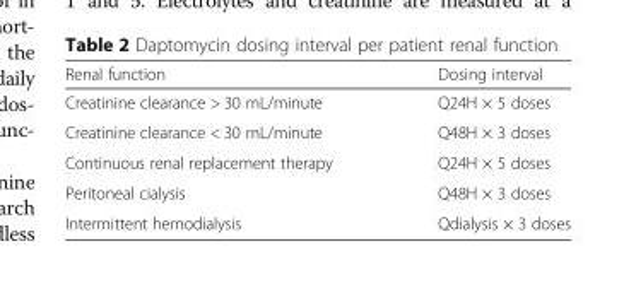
<table><thead><tr><td>Renal function</td><td>Dosing interval</td></tr></thead><tbody><tr><td>Creatinine clearance &gt; 30 mL/minute</td><td>Q24H × 5 doses</td></tr><tr><td>Creatinine clearance &lt; 30 mL/minute</td><td>Q48H × 3 doses</td></tr><tr><td>Continuous renal replacement therapy</td><td>Q24H × 5 doses</td></tr><tr><td>Peritoneal cialysis</td><td>Q48H × 3 doses</td></tr><tr><td>Intermittent hemodialysis</td><td>Qdialysis × 3 doses</td></tr></tbody></table>